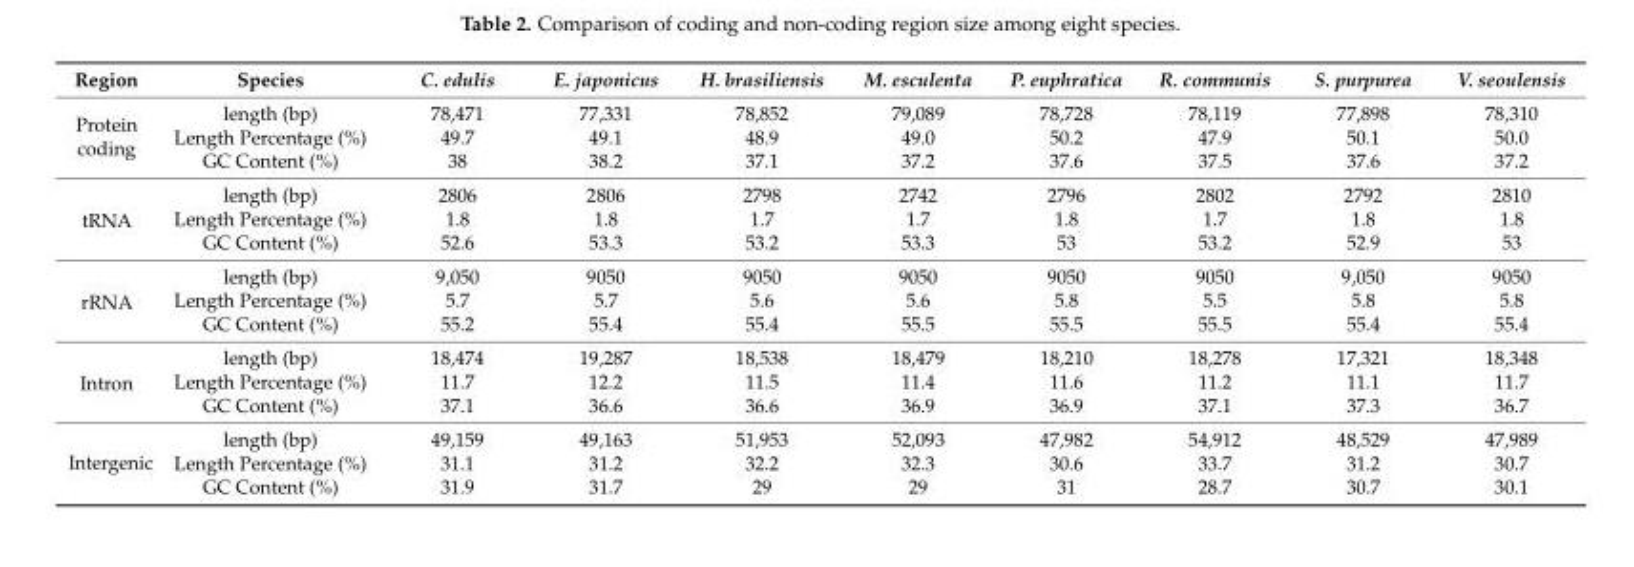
<table><thead><tr><td>Region</td><td>Species</td><td>C. edulis</td><td>E. japonicus</td><td>H. brasiliensis</td><td>M. esculenta</td><td>P. euphratica</td><td>R. communis</td><td>S. purpurea</td><td>V. seoulensis</td></tr></thead><tbody><tr><td rowspan="3">Protein coding</td><td>length (bp)</td><td>78,471</td><td>77,331</td><td>78,852</td><td>79,089</td><td>78,728</td><td>78,119</td><td>77,898</td><td>78,310</td></tr><tr><td>Length Percentage (%)</td><td>49.7</td><td>49.1</td><td>48.9</td><td>49.0</td><td>50.2</td><td>47.9</td><td>50.1</td><td>50.0</td></tr><tr><td>GC Content (%)</td><td>38</td><td>38.2</td><td>37.1</td><td>37.2</td><td>37.6</td><td>37.5</td><td>37.6</td><td>37.2</td></tr><tr><td rowspan="3">tRNA</td><td>length (bp)</td><td>2806</td><td>2806</td><td>2798</td><td>2742</td><td>2796</td><td>2802</td><td>2792</td><td>2810</td></tr><tr><td>Length Percentage (%)</td><td>1.8</td><td>1.8</td><td>1.7</td><td>1.7</td><td>1.8</td><td>1.7</td><td>1.8</td><td>1.8</td></tr><tr><td>GC Content (%)</td><td>52.6</td><td>53.3</td><td>53.2</td><td>53.3</td><td>53</td><td>53.2</td><td>52.9</td><td>53</td></tr><tr><td rowspan="3">rRNA</td><td>length (bp)</td><td>9,050</td><td>9050</td><td>9050</td><td>9050</td><td>9050</td><td>9050</td><td>9,050</td><td>9050</td></tr><tr><td>Length Percentage (%)</td><td>5.7</td><td>5.7</td><td>5.6</td><td>5.6</td><td>5.8</td><td>5.5</td><td>5.8</td><td>5.8</td></tr><tr><td>GC Content (%)</td><td>55.2</td><td>55.4</td><td>55.4</td><td>55.5</td><td>55.5</td><td>55.5</td><td>55.4</td><td>55.4</td></tr><tr><td rowspan="3">Intron</td><td>length (bp)</td><td>18,474</td><td>19,287</td><td>18,538</td><td>18,479</td><td>18,210</td><td>18,278</td><td>17,321</td><td>18,348</td></tr><tr><td>Length Percentage (%)</td><td>11.7</td><td>12.2</td><td>11.5</td><td>11.4</td><td>11.6</td><td>11.2</td><td>11.1</td><td>11.7</td></tr><tr><td>GC Content (%)</td><td>37.1</td><td>36.6</td><td>36.6</td><td>36.9</td><td>36.9</td><td>37.1</td><td>37.3</td><td>36.7</td></tr><tr><td rowspan="3">Intergenic</td><td>length (bp)</td><td>49,159</td><td>49,163</td><td>51,953</td><td>52,093</td><td>47,982</td><td>54,912</td><td>48,529</td><td>47,989</td></tr><tr><td>Length Percentage (%)</td><td>31.1</td><td>31.2</td><td>32.2</td><td>32.3</td><td>30.6</td><td>33.7</td><td>31.2</td><td>30.7</td></tr><tr><td>GC Content (%)</td><td>31.9</td><td>31.7</td><td>29</td><td>29</td><td>31</td><td>28.7</td><td>30.7</td><td>30.1</td></tr></tbody></table>